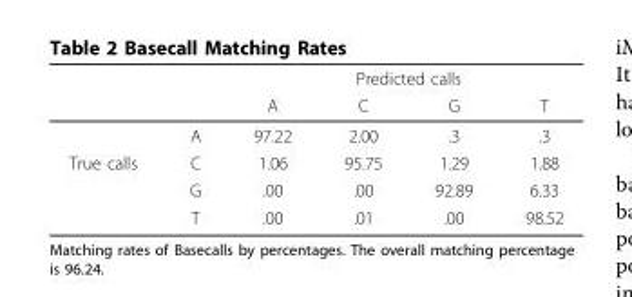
<table><thead><tr><td rowspan="2"></td><td rowspan="2"></td><td colspan="4">Predicted calls</td></tr><tr><td>A</td><td>C</td><td>G</td><td>T</td></tr></thead><tbody><tr><td></td><td>A</td><td>97.22</td><td>2.00</td><td>.3</td><td>.3</td></tr><tr><td rowspan="3">True calls</td><td>C</td><td>1.06</td><td>95.75</td><td>1.29</td><td>1.88</td></tr><tr><td>G</td><td>.00</td><td>.00</td><td>92.89</td><td>6.33</td></tr><tr><td>T</td><td>.00</td><td>.01</td><td>.00</td><td>98.52</td></tr></tbody></table>